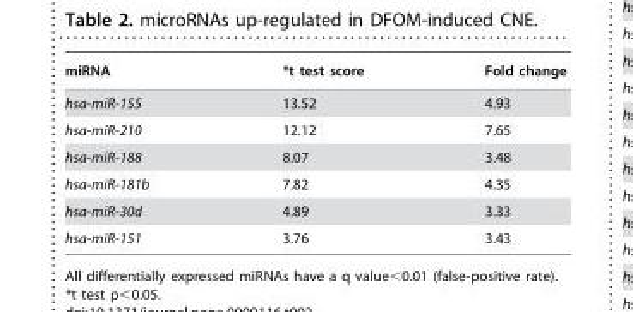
<table><thead><tr><td>miRNA</td><td>*t test score</td><td>Fold change</td></tr></thead><tbody><tr><td>hsa-miR-155</td><td>13.52</td><td>4.93</td></tr><tr><td>hsa-miR-210</td><td>12.12</td><td>7.65</td></tr><tr><td>hsa-miR-188</td><td>8.07</td><td>3.48</td></tr><tr><td>hsa-miR-181b</td><td>7.82</td><td>4.35</td></tr><tr><td>hsa-miR-30d</td><td>4.89</td><td>3.33</td></tr><tr><td>hsa-miR-151</td><td>3.76</td><td>3.43</td></tr></tbody></table>